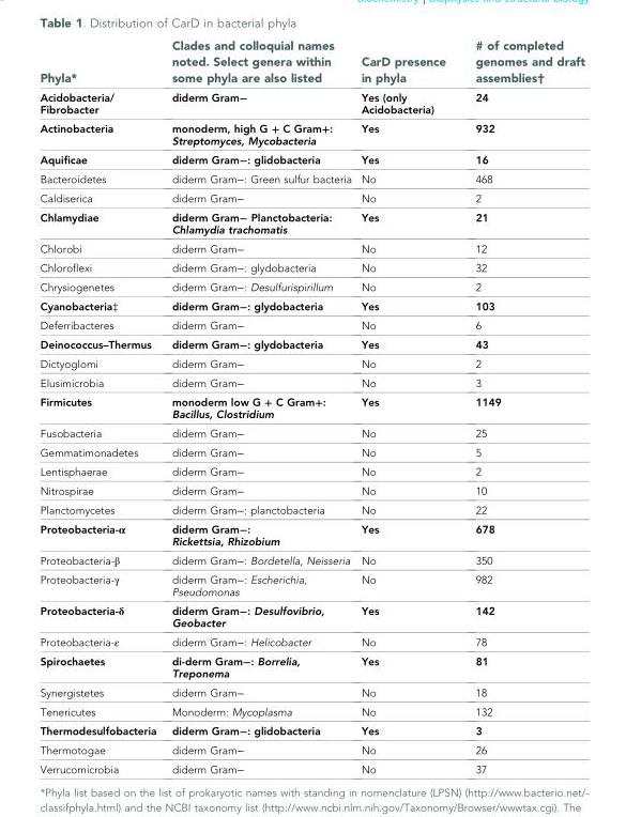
<table><thead><tr><td>Phyla*</td><td>Clades and colloquial names noted. Select genera within some phyla are also listed</td><td>CarD presence in phyla</td><td># of completed genomes and draft assemblies†</td></tr></thead><tbody><tr><td>Acidobacteria/ Fibrobacter</td><td>diderm Gram−</td><td>Yes (only Acidobacteria)</td><td>24</td></tr><tr><td>Actinobacteria</td><td>monoderm, high G + C Gram+: Streptomyces, Mycobacteria</td><td>Yes</td><td>932</td></tr><tr><td>Aquificae</td><td>diderm Gram−: glidobacteria</td><td>Yes</td><td>16</td></tr><tr><td>Bacteroidetes</td><td>diderm Gram−: Green sulfur bacteria</td><td>No</td><td>468</td></tr><tr><td>Caldiserica</td><td>diderm Gram−</td><td>No</td><td>2</td></tr><tr><td>Chlamydiae</td><td>diderm Gram− Planctobacteria: Chlamydia trachomatis</td><td>Yes</td><td>21</td></tr><tr><td>Chlorobi</td><td>diderm Gram−</td><td>No</td><td>12</td></tr><tr><td>Chloroflexi</td><td>diderm Gram−: glydobacteria</td><td>No</td><td>32</td></tr><tr><td>Chrysiogenetes</td><td>diderm Gram−: Desulfurispirillum</td><td>No</td><td>2</td></tr><tr><td>Cyanobacteria‡</td><td>diderm Gram−: glydobacteria</td><td>Yes</td><td>103</td></tr><tr><td>Deferribacteres</td><td>diderm Gram−</td><td>No</td><td>6</td></tr><tr><td>Deinococcus–Thermus</td><td>diderm Gram−: glydobacteria</td><td>Yes</td><td>43</td></tr><tr><td>Dictyoglomi</td><td>diderm Gram−</td><td>No</td><td>2</td></tr><tr><td>Elusimicrobia</td><td>diderm Gram−</td><td>No</td><td>3</td></tr><tr><td>Firmicutes</td><td>monoderm low G + C Gram+: Bacillus, Clostridium</td><td>Yes</td><td>1149</td></tr><tr><td>Fusobacteria</td><td>diderm Gram−</td><td>No</td><td>25</td></tr><tr><td>Gemmatimonadetes</td><td>diderm Gram−</td><td>No</td><td>5</td></tr><tr><td>Lentisphaerae</td><td>diderm Gram−</td><td>No</td><td>2</td></tr><tr><td>Nitrospirae</td><td>diderm Gram−</td><td>No</td><td>10</td></tr><tr><td>Planctomycetes</td><td>diderm Gram−: planctobacteria</td><td>No</td><td>22</td></tr><tr><td>Proteobacteria-α</td><td>diderm Gram−: Rickettsia, Rhizobium</td><td>Yes</td><td>678</td></tr><tr><td>Proteobacteria-β</td><td>diderm Gram−: Bordetella, Neisseria</td><td>No</td><td>350</td></tr><tr><td>Proteobacteria-γ</td><td>diderm Gram−: Escherichia, Pseudomonas</td><td>No</td><td>982</td></tr><tr><td>Proteobacteria-δ</td><td>diderm Gram−: Desulfovibrio, Geobacter</td><td>Yes</td><td>142</td></tr><tr><td>Proteobacteria-ε</td><td>diderm Gram−: Helicobacter</td><td>No</td><td>78</td></tr><tr><td>Spirochaetes</td><td>di-derm Gram−: Borrelia, Treponema</td><td>Yes</td><td>81</td></tr><tr><td>Synergistetes</td><td>diderm Gram−</td><td>No</td><td>18</td></tr><tr><td>Tenericutes</td><td>Monoderm: Mycoplasma</td><td>No</td><td>132</td></tr><tr><td>Thermodesulfobacteria</td><td>diderm Gram−: glidobacteria</td><td>Yes</td><td>3</td></tr><tr><td>Thermotogae</td><td>diderm Gram−</td><td>No</td><td>26</td></tr><tr><td>Verrucomicrobia</td><td>diderm Gram−</td><td>No</td><td>37</td></tr></tbody></table>